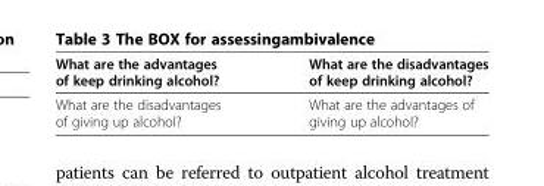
<table><thead><tr><td>What are the advantages of keep drinking alcohol?</td><td>What are the disadvantages of keep drinking alcohol?</td></tr></thead><tbody><tr><td>What are the disadvantages of giving up alcohol?</td><td>What are the advantages of giving up alcohol?</td></tr></tbody></table>